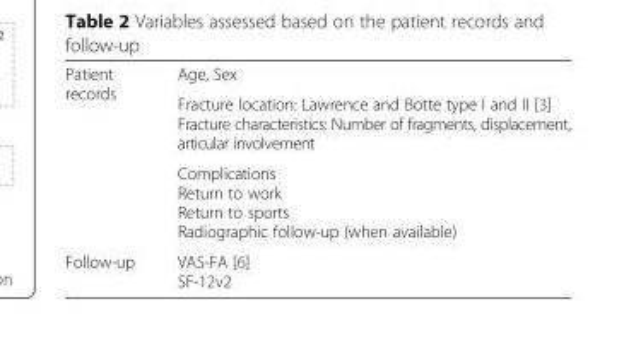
<table><tbody><tr><td rowspan="3">Patient records</td><td>Age, Sex</td></tr><tr><td>Fracture location: Lawrence and Botte type I and II [3] Fracture characteristics: Number of fragments, displacement, articular involvement</td></tr><tr><td>Complications Return to work Return to sports Radiographic follow-up (when available)</td></tr><tr><td>Follow-up</td><td>VAS-FA [6] SF-12v2</td></tr></tbody></table>